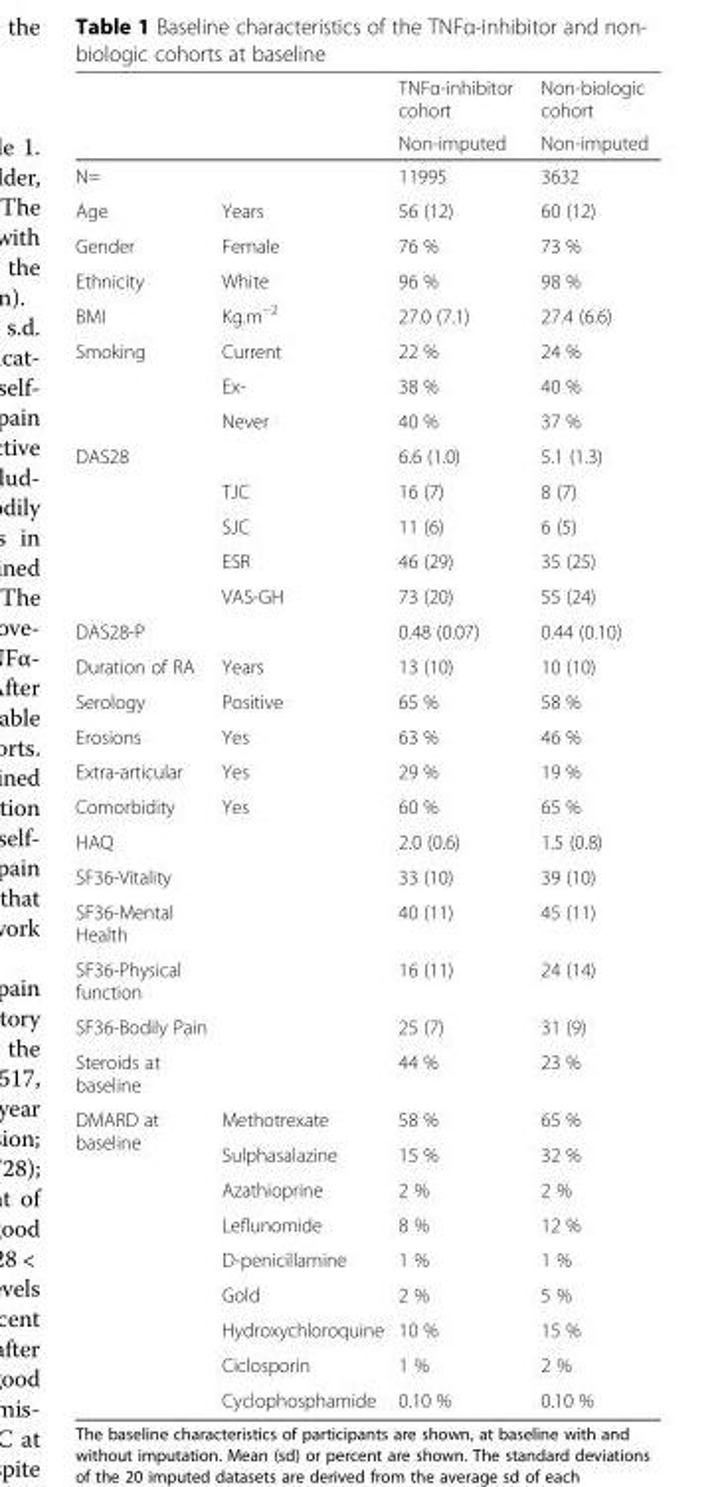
<table><thead><tr><td rowspan="2"></td><td rowspan="2"></td><td rowspan="2">TNFα-inhibitor cohort Non-imputed</td><td rowspan="2">Non-biologic cohort Non-imputed</td></tr><tr></tr></thead><tbody><tr><td>N=</td><td></td><td>11995</td><td>3632</td></tr><tr><td>Age</td><td>Years</td><td>56 (12)</td><td>60 (12)</td></tr><tr><td>Gender</td><td>Female</td><td>76 %</td><td>73 %</td></tr><tr><td>Ethnicity</td><td>White</td><td>96 %</td><td>98 %</td></tr><tr><td>BMI</td><td>Kg.m<sup>−2</sup></td><td>27.0 (7.1)</td><td>27.4 (6.6)</td></tr><tr><td rowspan="3">Smoking</td><td>Current</td><td>22 %</td><td>24 %</td></tr><tr><td>Ex-</td><td>38 %</td><td>40 %</td></tr><tr><td>Never</td><td>40 %</td><td>37 %</td></tr><tr><td rowspan="5">DAS28</td><td></td><td>6.6 (1.0)</td><td>5.1 (1.3)</td></tr><tr><td>TJC</td><td>16 (7)</td><td>8 (7)</td></tr><tr><td>SJC</td><td>11 (6)</td><td>6 (5)</td></tr><tr><td>ESR</td><td>46 (29)</td><td>35 (25)</td></tr><tr><td>VAS-GH</td><td>73 (20)</td><td>55 (24)</td></tr><tr><td>DAS28-P</td><td></td><td>0.48 (0.07)</td><td>0.44 (0.10)</td></tr><tr><td>Duration of RA</td><td>Years</td><td>13 (10)</td><td>10 (10)</td></tr><tr><td>Serology</td><td>Positive</td><td>65 %</td><td>58 %</td></tr><tr><td>Erosions</td><td>Yes</td><td>63 %</td><td>46 %</td></tr><tr><td>Extra-articular</td><td>Yes</td><td>29 %</td><td>19 %</td></tr><tr><td>Comorbidity</td><td>Yes</td><td>60 %</td><td>65 %</td></tr><tr><td>HAQ</td><td></td><td>2.0 (0.6)</td><td>1.5 (0.8)</td></tr><tr><td>SF36-Vitality</td><td></td><td>33 (10)</td><td>39 (10)</td></tr><tr><td>SF36-Mental Health</td><td></td><td>40 (11)</td><td>45 (11)</td></tr><tr><td>SF36-Physical function</td><td></td><td>16 (11)</td><td>24 (14)</td></tr><tr><td>SF36-Bodily Pain</td><td></td><td>25 (7)</td><td>31 (9)</td></tr><tr><td>Steroids at baseline</td><td></td><td>44 %</td><td>23 %</td></tr><tr><td rowspan="9">DMARD at baseline</td><td>Methotrexate</td><td>58 %</td><td>65 %</td></tr><tr><td>Sulphasalazine</td><td>15 %</td><td>32 %</td></tr><tr><td>Azathioprine</td><td>2 %</td><td>2 %</td></tr><tr><td>Leflunomide</td><td>8 %</td><td>12 %</td></tr><tr><td>D-penicillamine</td><td>1 %</td><td>1 %</td></tr><tr><td>Gold</td><td>2 %</td><td>5 %</td></tr><tr><td>Hydroxychloroquine</td><td>10 %</td><td>15 %</td></tr><tr><td>Ciclosporin</td><td>1 %</td><td>2 %</td></tr><tr><td>Cyclophosphamide</td><td>0.10 %</td><td>0.10 %</td></tr></tbody></table>